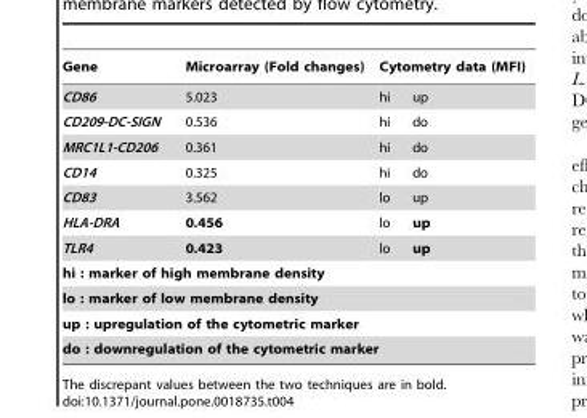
<table><thead><tr><td rowspan="2">Gene CD86</td><td rowspan="2">Microarray (Fold changes) 5.023</td><td colspan="2">Cytometry data (MFI)</td></tr><tr><td>hi</td><td>up</td></tr></thead><tbody><tr><td>CD209-DC-SIGN</td><td>0.536</td><td>hi</td><td>do</td></tr><tr><td>MRC1L1-CD206</td><td>0.361</td><td>hi</td><td>do</td></tr><tr><td>CD14</td><td>0.325</td><td>hi</td><td>do</td></tr><tr><td>CD83</td><td>3.562</td><td>lo</td><td>up</td></tr><tr><td>HLA-DRA</td><td>0.456</td><td>lo</td><td>up</td></tr><tr><td>TLR4</td><td>0.423</td><td>lo</td><td>up</td></tr><tr><td colspan="4">hi : marker of high membrane density</td></tr><tr><td colspan="4">lo : marker of low membrane density</td></tr><tr><td colspan="4">up : upregulation of the cytometric marker</td></tr><tr><td colspan="4">do : downregulation of the cytometric marker</td></tr></tbody></table>